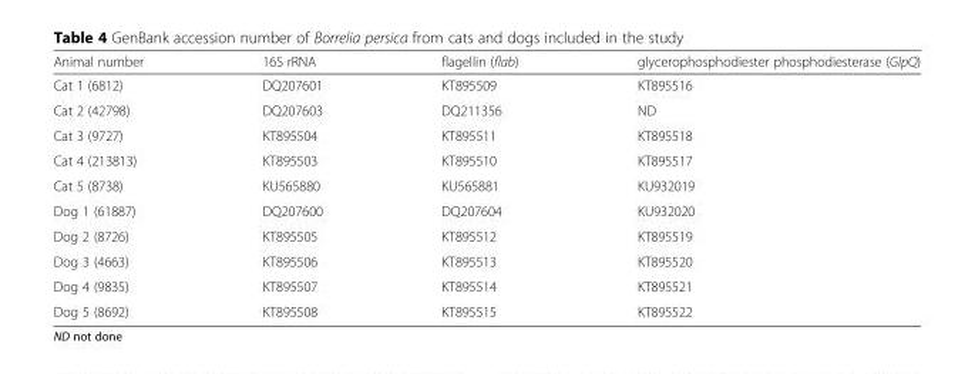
<table><thead><tr><td>Animal number</td><td>16S rRNA</td><td>flagellin (flab)</td><td>glycerophosphodiester phosphodiesterase (GlpQ)</td></tr></thead><tbody><tr><td>Cat 1 (6812)</td><td>DQ207601</td><td>KT895509</td><td>KT895516</td></tr><tr><td>Cat 2 (42798)</td><td>DQ207603</td><td>DQ211356</td><td>ND</td></tr><tr><td>Cat 3 (9727)</td><td>KT895504</td><td>KT895511</td><td>KT895518</td></tr><tr><td>Cat 4 (213813)</td><td>KT895503</td><td>KT895510</td><td>KT895517</td></tr><tr><td>Cat 5 (8738)</td><td>KU565880</td><td>KU565881</td><td>KU932019</td></tr><tr><td>Dog 1 (61887)</td><td>DQ207600</td><td>DQ207604</td><td>KU932020</td></tr><tr><td>Dog 2 (8726)</td><td>KT895505</td><td>KT895512</td><td>KT895519</td></tr><tr><td>Dog 3 (4663)</td><td>KT895506</td><td>KT895513</td><td>KT895520</td></tr><tr><td>Dog 4 (9835)</td><td>KT895507</td><td>KT895514</td><td>KT895521</td></tr><tr><td>Dog 5 (8692)</td><td>KT895508</td><td>KT895515</td><td>KT895522</td></tr></tbody></table>